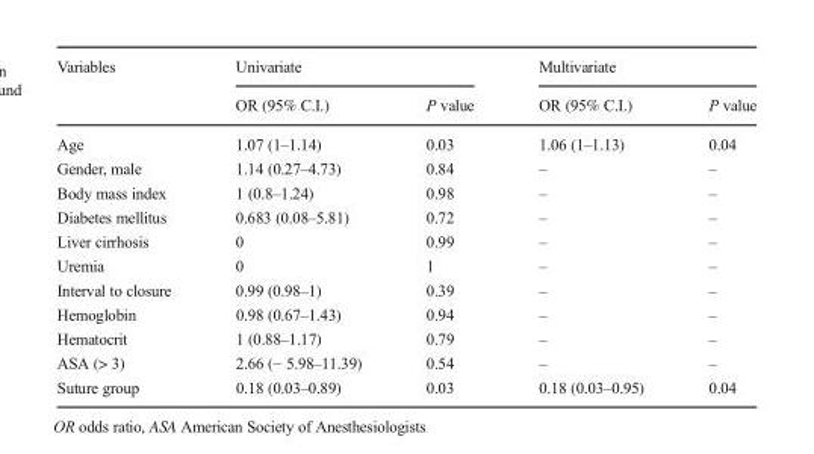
<table><thead><tr><td rowspan="2">Variables</td><td colspan="2">Univariate</td><td colspan="2">Multivariate</td></tr><tr><td>OR (95% C.I.)</td><td>P value</td><td>OR (95% C.I.)</td><td>P value</td></tr></thead><tbody><tr><td>Age</td><td>1.07 (1–1.14)</td><td>0.03</td><td>1.06 (1–1.13)</td><td>0.04</td></tr><tr><td>Gender, male</td><td>1.14 (0.27–4.73)</td><td>0.84</td><td>–</td><td>–</td></tr><tr><td>Body mass index</td><td>1 (0.8–1.24)</td><td>0.98</td><td>–</td><td>–</td></tr><tr><td>Diabetes mellitus</td><td>0.683 (0.08–5.81)</td><td>0.72</td><td>–</td><td>–</td></tr><tr><td>Liver cirrhosis</td><td>0</td><td>0.99</td><td>–</td><td>–</td></tr><tr><td>Uremia</td><td>0</td><td>1</td><td>–</td><td>–</td></tr><tr><td>Interval to closure</td><td>0.99 (0.98–1)</td><td>0.39</td><td>–</td><td>–</td></tr><tr><td>Hemoglobin</td><td>0.98 (0.67–1.43)</td><td>0.94</td><td>–</td><td>–</td></tr><tr><td>Hematocrit</td><td>1 (0.88–1.17)</td><td>0.79</td><td>–</td><td>–</td></tr><tr><td>ASA (&gt; 3)</td><td>2.66 (− 5.98–11.39)</td><td>0.54</td><td>–</td><td>–</td></tr><tr><td>Suture group</td><td>0.18 (0.03–0.89)</td><td>0.03</td><td>0.18 (0.03–0.95)</td><td>0.04</td></tr></tbody></table>